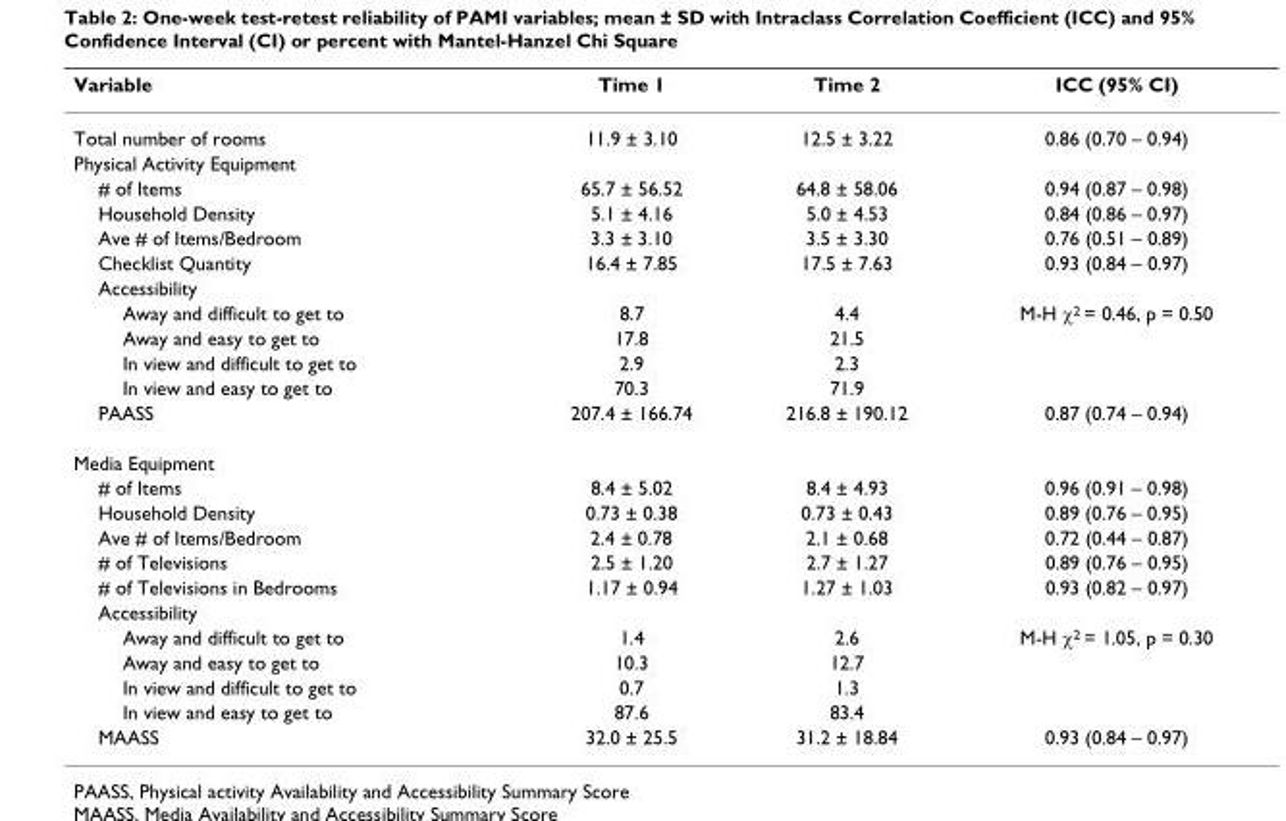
<table><thead><tr><td>Variable</td><td>Time 1</td><td>Time 2</td><td>ICC (95% CI)</td></tr></thead><tbody><tr><td>Total number of rooms</td><td>11.9 ± 3.10</td><td>12.5 ± 3.22</td><td>0.86 (0.70 – 0.94)</td></tr><tr><td colspan="4">Physical Activity Equipment</td></tr><tr><td># of Items</td><td>65.7 ± 56.52</td><td>64.8 ± 58.06</td><td>0.94 (0.87 – 0.98)</td></tr><tr><td>Household Density</td><td>5.1 ± 4.16</td><td>5.0 ± 4.53</td><td>0.84 (0.86 – 0.97)</td></tr><tr><td>Ave # of Items/Bedroom</td><td>3.3 ± 3.10</td><td>3.5 ± 3.30</td><td>0.76 (0.51 – 0.89)</td></tr><tr><td>Checklist Quantity</td><td>16.4 ± 7.85</td><td>17.5 ± 7.63</td><td>0.93 (0.84 – 0.97)</td></tr><tr><td colspan="4">Accessibility</td></tr><tr><td>Away and difficult to get to</td><td>8.7</td><td>4.4</td><td>M-H χ<sup>2</sup> = 0.46, p = 0.50</td></tr><tr><td>Away and easy to get to</td><td>17.8</td><td>21.5</td><td></td></tr><tr><td>In view and difficult to get to</td><td>2.9</td><td>2.3</td><td></td></tr><tr><td>In view and easy to get to</td><td>70.3</td><td>71.9</td><td></td></tr><tr><td>PAASS</td><td>207.4 ± 166.74</td><td>216.8 ± 190.12</td><td>0.87 (0.74 – 0.94)</td></tr><tr><td colspan="4">Media Equipment</td></tr><tr><td># of Items</td><td>8.4 ± 5.02</td><td>8.4 ± 4.93</td><td>0.96 (0.91 – 0.98)</td></tr><tr><td>Household Density</td><td>0.73 ± 0.38</td><td>0.73 ± 0.43</td><td>0.89 (0.76 – 0.95)</td></tr><tr><td>Ave # of Items/Bedroom</td><td>2.4 ± 0.78</td><td>2.1 ± 0.68</td><td>0.72 (0.44 – 0.87)</td></tr><tr><td># of Televisions</td><td>2.5 ± 1.20</td><td>2.7 ± 1.27</td><td>0.89 (0.76 – 0.95)</td></tr><tr><td># of Televisions in Bedrooms</td><td>1.17 ± 0.94</td><td>1.27 ± 1.03</td><td>0.93 (0.82 – 0.97)</td></tr><tr><td colspan="4">Accessibility</td></tr><tr><td>Away and difficult to get to</td><td>1.4</td><td>2.6</td><td>M-H χ<sup>2</sup> = 1.05, p = 0.30</td></tr><tr><td>Away and easy to get to</td><td>10.3</td><td>12.7</td><td></td></tr><tr><td>In view and difficult to get to</td><td>0.7</td><td>1.3</td><td></td></tr><tr><td>In view and easy to get to</td><td>87.6</td><td>83.4</td><td></td></tr><tr><td>MAASS</td><td>32.0 ± 25.5</td><td>31.2 ± 18.84</td><td>0.93 (0.84 – 0.97)</td></tr></tbody></table>